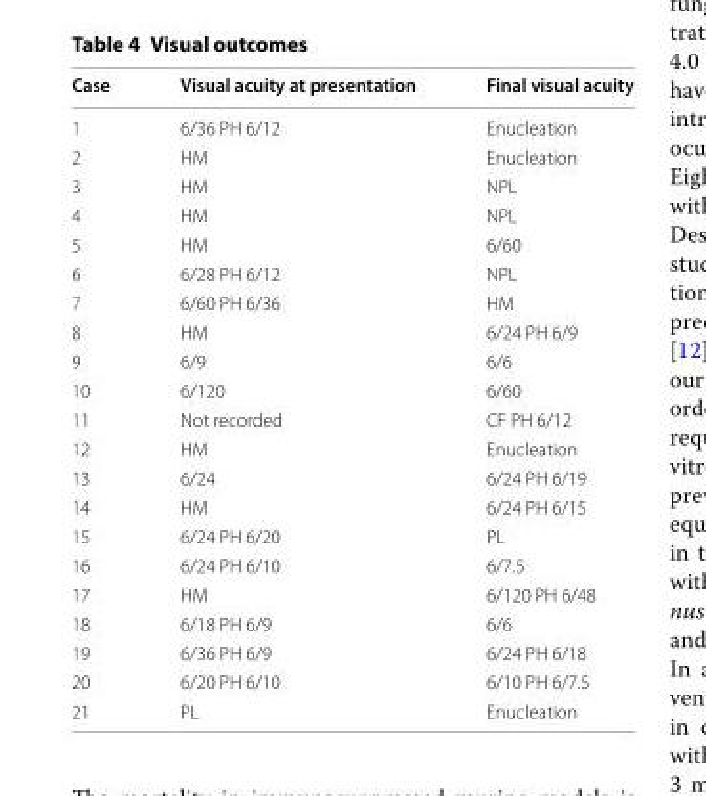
<table><thead><tr><td>Case</td><td>Visual acuity at presentation</td><td>Final visual acuity</td></tr></thead><tbody><tr><td>1</td><td>6/36 PH 6/12</td><td>Enucleation</td></tr><tr><td>2</td><td>HM</td><td>Enucleation</td></tr><tr><td>3</td><td>HM</td><td>NPL</td></tr><tr><td>4</td><td>HM</td><td>NPL</td></tr><tr><td>5</td><td>HM</td><td>6/60</td></tr><tr><td>6</td><td>6/28 PH 6/12</td><td>NPL</td></tr><tr><td>7</td><td>6/60 PH 6/36</td><td>HM</td></tr><tr><td>8</td><td>HM</td><td>6/24 PH 6/9</td></tr><tr><td>9</td><td>6/9</td><td>6/6</td></tr><tr><td>10</td><td>6/120</td><td>6/60</td></tr><tr><td>11</td><td>Not recorded</td><td>CF PH 6/12</td></tr><tr><td>12</td><td>HM</td><td>Enucleation</td></tr><tr><td>13</td><td>6/24</td><td>6/24 PH 6/19</td></tr><tr><td>14</td><td>HM</td><td>6/24 PH 6/15</td></tr><tr><td>15</td><td>6/24 PH 6/20</td><td>PL</td></tr><tr><td>16</td><td>6/24 PH 6/10</td><td>6/7.5</td></tr><tr><td>17</td><td>HM</td><td>6/120 PH 6/48</td></tr><tr><td>18</td><td>6/18 PH 6/9</td><td>6/6</td></tr><tr><td>19</td><td>6/36 PH 6/9</td><td>6/24 PH 6/18</td></tr><tr><td>20</td><td>6/20 PH 6/10</td><td>6/10 PH 6/7.5</td></tr><tr><td>21</td><td>PL</td><td>Enucleation</td></tr></tbody></table>